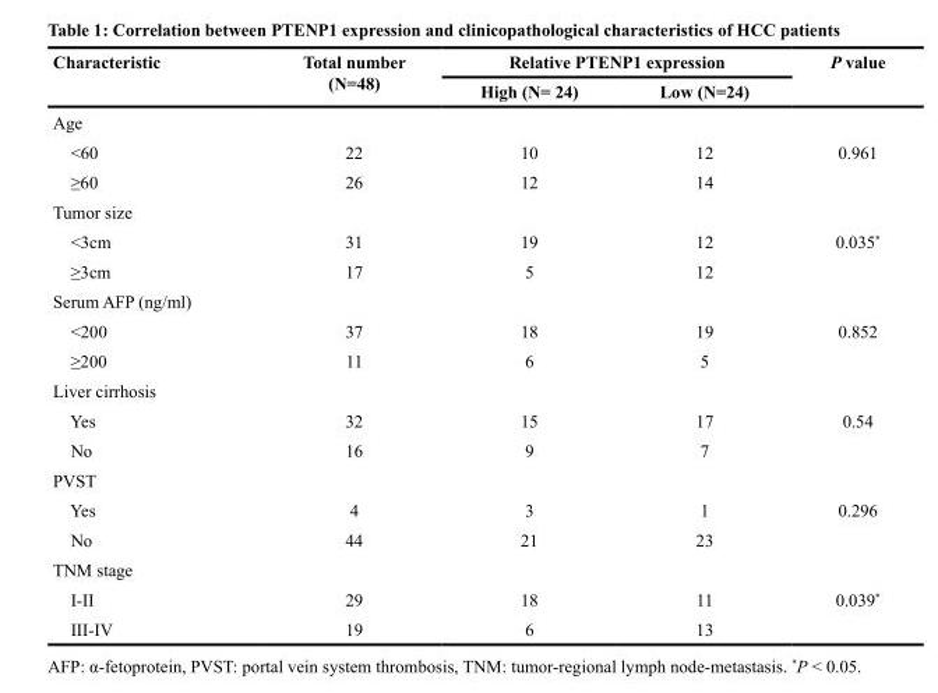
<table><thead><tr><td rowspan="2">Characteristic</td><td rowspan="2">Total number (N=48)</td><td colspan="2">Relative PTENP1 expression</td><td rowspan="2">P value</td></tr><tr><td>High (N= 24)</td><td>Low (N=24)</td></tr></thead><tbody><tr><td colspan="5">Age</td></tr><tr><td>&lt;60</td><td>22</td><td>10</td><td>12</td><td>0.961</td></tr><tr><td>≥60</td><td>26</td><td>12</td><td>14</td><td></td></tr><tr><td colspan="5">Tumor size</td></tr><tr><td>&lt;3cm</td><td>31</td><td>19</td><td>12</td><td>0.035*</td></tr><tr><td>≥3cm</td><td>17</td><td>5</td><td>12</td><td></td></tr><tr><td colspan="5">Serum AFP (ng/ml)</td></tr><tr><td>&lt;200</td><td>37</td><td>18</td><td>19</td><td>0.852</td></tr><tr><td>≥200</td><td>11</td><td>6</td><td>5</td><td></td></tr><tr><td colspan="5">Liver cirrhosis</td></tr><tr><td>Yes</td><td>32</td><td>15</td><td>17</td><td>0.54</td></tr><tr><td>No</td><td>16</td><td>9</td><td>7</td><td></td></tr><tr><td colspan="5">PVST</td></tr><tr><td>Yes</td><td>4</td><td>3</td><td>1</td><td>0.296</td></tr><tr><td>No</td><td>44</td><td>21</td><td>23</td><td></td></tr><tr><td colspan="5">TNM stage</td></tr><tr><td>I-II</td><td>29</td><td>18</td><td>11</td><td>0.039*</td></tr><tr><td>III-IV</td><td>19</td><td>6</td><td>13</td><td></td></tr></tbody></table>